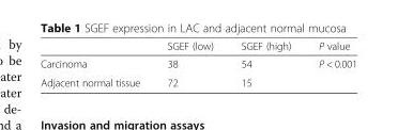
<table><thead><tr><td></td><td>SGEF (low)</td><td>SGEF (high)</td><td>P value</td></tr></thead><tbody><tr><td>Carcinoma</td><td>38</td><td>54</td><td rowspan="2">P &lt; 0.001</td></tr><tr><td>Adjacent normal tissue</td><td>72</td><td>15</td></tr></tbody></table>